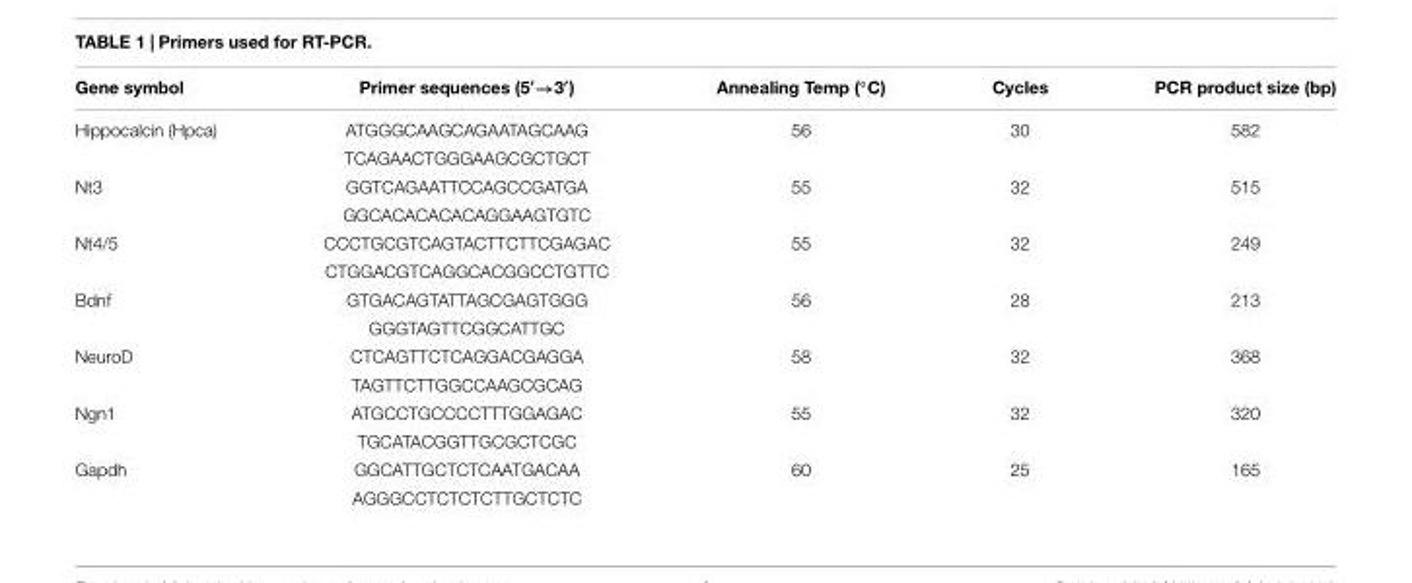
<table><thead><tr><td>Gene symbol</td><td>Primer sequences (5′→3′)</td><td>Annealing Temp (◦C)</td><td>Cycles</td><td>PCR product size (bp)</td></tr></thead><tbody><tr><td rowspan="2">Hippocalcin (Hpca)</td><td>ATGGGCAAGCAGAATAGCAAG</td><td>56</td><td>30</td><td>582</td></tr><tr><td>TCAGAACTGGGAAGCGCTGCT</td><td></td><td></td><td></td></tr><tr><td rowspan="2">Nt3</td><td>GGTCAGAATTCCAGCCGATGA</td><td>55</td><td>32</td><td>515</td></tr><tr><td>GGCACACACACAGGAAGTGTC</td><td></td><td></td><td></td></tr><tr><td rowspan="2">Nt4/5</td><td>CCCTGCGTCAGTACTTCTTCGAGAC</td><td>55</td><td>32</td><td>249</td></tr><tr><td>CTGGACGTCAGGCACGGCCTGTTC</td><td></td><td></td><td></td></tr><tr><td rowspan="2">Bdnf</td><td>GTGACAGTATTAGCGAGTGGG</td><td>56</td><td>28</td><td>213</td></tr><tr><td>GGGTAGTTCGGCATTGC</td><td></td><td></td><td></td></tr><tr><td rowspan="2">NeuroD</td><td>CTCAGTTCTCAGGACGAGGA</td><td>58</td><td>32</td><td>368</td></tr><tr><td>TAGTTCTTGGCCAAGCGCAG</td><td></td><td></td><td></td></tr><tr><td rowspan="2">Ngn1</td><td>ATGCCTGCCCCTTTGGAGAC</td><td>55</td><td>32</td><td>320</td></tr><tr><td>TGCATACGGTTGCGCTCGC</td><td></td><td></td><td></td></tr><tr><td rowspan="2">Gapdh</td><td>GGCATTGCTCTCAATGACAA</td><td>60</td><td>25</td><td>165</td></tr><tr><td>AGGGCCTCTCTCTTGCTCTC</td><td></td><td></td><td></td></tr></tbody></table>